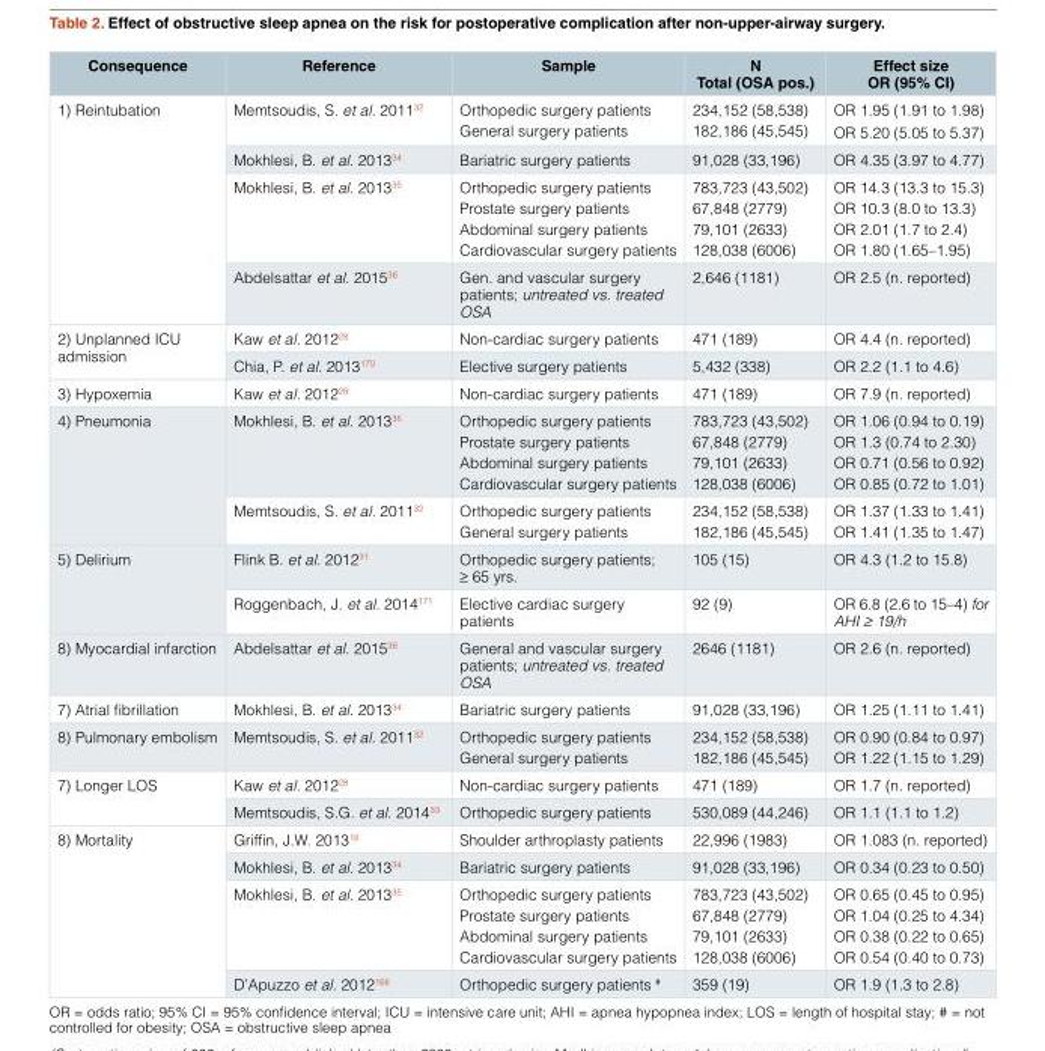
<table><thead><tr><td>Consequence</td><td>Reference</td><td>Sample</td><td>N Total (OSA pos.)</td><td>Effect size OR (95% CI)</td></tr></thead><tbody><tr><td rowspan="8">1) Reintubation</td><td>Memtsoudis, S. et al. 2011<sup>32</sup></td><td>Orthopedic surgery patients</td><td>234,152 (58,538)</td><td>OR 1.95 (1.91 to 1.98)</td></tr><tr><td></td><td>General surgery patients</td><td>182,186 (45,545)</td><td>OR 5.20 (5.05 to 5.37)</td></tr><tr><td>Mokhlesi, B. et al. 2013<sup>34</sup></td><td>Bariatric surgery patients</td><td>91,028 (33,196)</td><td>OR 4.35 (3.97 to 4.77)</td></tr><tr><td>Mokhlesi, B. et al. 2013<sup>35</sup></td><td>Orthopedic surgery patients</td><td>783,723 (43,502)</td><td>OR 14.3 (13.3 to 15.3)</td></tr><tr><td></td><td>Prostate surgery patients</td><td>67,848 (2779)</td><td>OR 10.3 (8.0 to 13.3)</td></tr><tr><td></td><td>Abdominal surgery patients</td><td>79,101 (2633)</td><td>OR 2.01 (1.7 to 2.4)</td></tr><tr><td></td><td>Cardiovascular surgery patients</td><td>128,038 (6006)</td><td>OR 1.80 (1.65–1.95)</td></tr><tr><td>Abdelsattar et al. 2015<sup>36</sup></td><td>Gen. and vascular surgery patients; untreated vs. treated OSA</td><td>2,646 (1181)</td><td>OR 2.5 (n. reported)</td></tr><tr><td rowspan="2">2) Unplanned ICU admission</td><td>Kaw et al. 2012<sup>28</sup></td><td>Non-cardiac surgery patients</td><td>471 (189)</td><td>OR 4.4 (n. reported)</td></tr><tr><td>Chia, P. et al. 2013<sup>170</sup></td><td>Elective surgery patients</td><td>5,432 (338)</td><td>OR 2.2 (1.1 to 4.6)</td></tr><tr><td>3) Hypoxemia</td><td>Kaw et al. 2012<sup>28</sup></td><td>Non-cardiac surgery patients</td><td>471 (189)</td><td>OR 7.9 (n. reported)</td></tr><tr><td rowspan="6">4) Pneumonia</td><td>Mokhlesi, B. et al. 2013<sup>35</sup></td><td>Orthopedic surgery patients</td><td>783,723 (43,502)</td><td>OR 1.06 (0.94 to 0.19)</td></tr><tr><td></td><td>Prostate surgery patients</td><td>67,848 (2779)</td><td>OR 1.3 (0.74 to 2.30)</td></tr><tr><td></td><td>Abdominal surgery patients</td><td>79,101 (2633)</td><td>OR 0.71 (0.56 to 0.92)</td></tr><tr><td></td><td>Cardiovascular surgery patients</td><td>128,038 (6006)</td><td>OR 0.85 (0.72 to 1.01)</td></tr><tr><td>Memtsoudis, S. et al. 2011<sup>32</sup></td><td>Orthopedic surgery patients</td><td>234,152 (58,538)</td><td>OR 1.37 (1.33 to 1.41)</td></tr><tr><td></td><td>General surgery patients</td><td>182,186 (45,545)</td><td>OR 1.41 (1.35 to 1.47)</td></tr><tr><td rowspan="2">5) Delirium</td><td>Flink B. et al. 2012<sup>31</sup></td><td>Orthopedic surgery patients; ≥ 65 yrs.</td><td>105 (15)</td><td>OR 4.3 (1.2 to 15.8)</td></tr><tr><td>Roggenbach, J. et al. 2014<sup>171</sup></td><td>Elective cardiac surgery patients</td><td>92 (9)</td><td>OR 6.8 (2.6 to 15–4) for AHI ≥ 19/h</td></tr><tr><td>8) Myocardial infarction</td><td>Abdelsattar et al. 2015<sup>36</sup></td><td>General and vascular surgery patients; untreated vs. treated OSA</td><td>2646 (1181)</td><td>OR 2.6 (n. reported)</td></tr><tr><td>7) Atrial fibrillation</td><td>Mokhlesi, B. et al. 2013<sup>34</sup></td><td>Bariatric surgery patients</td><td>91,028 (33,196)</td><td>OR 1.25 (1.11 to 1.41)</td></tr><tr><td rowspan="2">8) Pulmonary embolism</td><td>Memtsoudis, S. et al. 2011<sup>32</sup></td><td>Orthopedic surgery patients</td><td>234,152 (58,538)</td><td>OR 0.90 (0.84 to 0.97)</td></tr><tr><td></td><td>General surgery patients</td><td>182,186 (45,545)</td><td>OR 1.22 (1.15 to 1.29)</td></tr><tr><td rowspan="2">7) Longer LOS</td><td>Kaw et al. 2012<sup>28</sup></td><td>Non-cardiac surgery patients</td><td>471 (189)</td><td>OR 1.7 (n. reported)</td></tr><tr><td>Memtsoudis, S.G. et al. 2014<sup>33</sup></td><td>Orthopedic surgery patients</td><td>530,089 (44,246)</td><td>OR 1.1 (1.1 to 1.2)</td></tr><tr><td rowspan="7">8) Mortality</td><td>Griffin, J.W. 2013<sup>16</sup></td><td>Shoulder arthroplasty patients</td><td>22,996 (1983)</td><td>OR 1.083 (n. reported)</td></tr><tr><td>Mokhlesi, B. et al. 2013<sup>34</sup></td><td>Bariatric surgery patients</td><td>91,028 (33,196)</td><td>OR 0.34 (0.23 to 0.50)</td></tr><tr><td>Mokhlesi, B. et al. 2013<sup>35</sup></td><td>Orthopedic surgery patients</td><td>783,723 (43,502)</td><td>OR 0.65 (0.45 to 0.95)</td></tr><tr><td></td><td>Prostate surgery patients</td><td>67,848 (2779)</td><td>OR 1.04 (0.25 to 4.34)</td></tr><tr><td></td><td>Abdominal surgery patients</td><td>79,101 (2633)</td><td>OR 0.38 (0.22 to 0.65)</td></tr><tr><td></td><td>Cardiovascular surgery patients</td><td>128,038 (6006)</td><td>OR 0.54 (0.40 to 0.73)</td></tr><tr><td>D’Apuzzo et al. 2012<sup>166</sup></td><td>Orthopedic surgery patients <sup>#</sup></td><td>359 (19)</td><td>OR 1.9 (1.3 to 2.8)</td></tr></tbody></table>